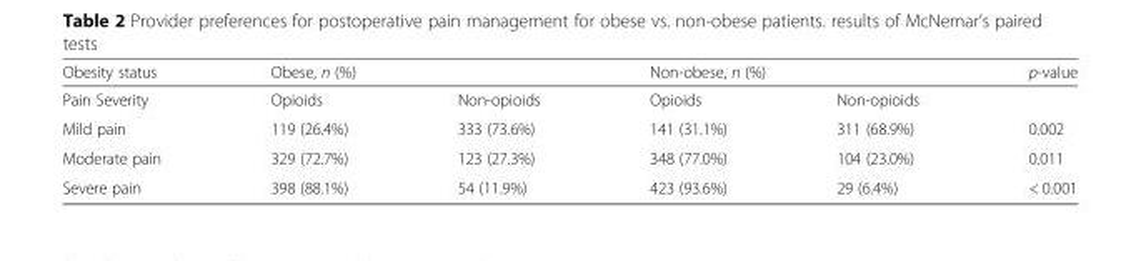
<table><thead><tr><td rowspan="2">Obesity status Pain Severity</td><td colspan="2">Obese, n (%)</td><td colspan="2">Non-obese, n (%)</td><td rowspan="2">p-value</td></tr><tr><td>Opioids</td><td>Non-opioids</td><td>Opioids</td><td>Non-opioids</td></tr></thead><tbody><tr><td>Mild pain</td><td>119 (26.4%)</td><td>333 (73.6%)</td><td>141 (31.1%)</td><td>311 (68.9%)</td><td>0.002</td></tr><tr><td>Moderate pain</td><td>329 (72.7%)</td><td>123 (27.3%)</td><td>348 (77.0%)</td><td>104 (23.0%)</td><td>0.011</td></tr><tr><td>Severe pain</td><td>398 (88.1%)</td><td>54 (11.9%)</td><td>423 (93.6%)</td><td>29 (6.4%)</td><td>&lt; 0.001</td></tr></tbody></table>